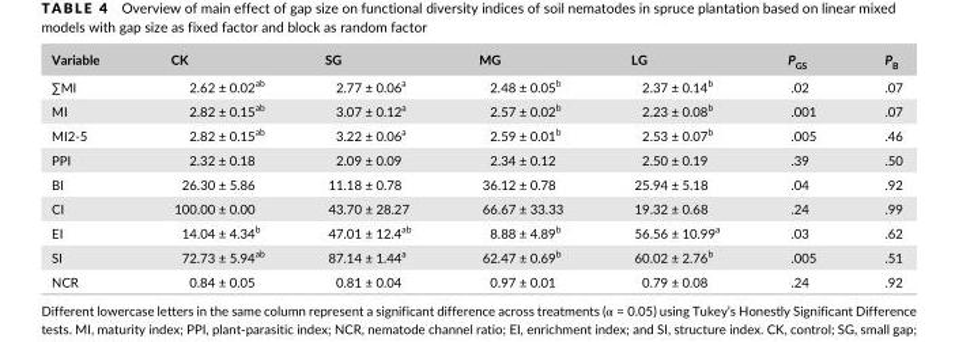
<table><thead><tr><td>Variable</td><td>CK</td><td>SG</td><td>MG</td><td>LG</td><td>P<sub>GS</sub></td><td>P<sub>B</sub></td></tr></thead><tbody><tr><td>∑MI</td><td>2.62 ± 0.02<sup>ab</sup></td><td>2.77 ± 0.06<sup>a</sup></td><td>2.48 ± 0.05<sup>b</sup></td><td>2.37 ± 0.14<sup>b</sup></td><td>.02</td><td>.07</td></tr><tr><td>MI</td><td>2.82 ± 0.15<sup>ab</sup></td><td>3.07 ± 0.12<sup>a</sup></td><td>2.57 ± 0.02<sup>b</sup></td><td>2.23 ± 0.08<sup>b</sup></td><td>.001</td><td>.07</td></tr><tr><td>MI2- 5</td><td>2.82 ± 0.15<sup>ab</sup></td><td>3.22 ± 0.06<sup>a</sup></td><td>2.59 ± 0.01<sup>b</sup></td><td>2.53 ± 0.07<sup>b</sup></td><td>.005</td><td>.46</td></tr><tr><td>PPI</td><td>2.32 ± 0.18</td><td>2.09 ± 0.09</td><td>2.34 ± 0.12</td><td>2.50 ± 0.19</td><td>.39</td><td>.50</td></tr><tr><td>BI</td><td>26.30 ± 5.86</td><td>11.18 ± 0.78</td><td>36.12 ± 0.78</td><td>25.94 ± 5.18</td><td>.04</td><td>.92</td></tr><tr><td>CI</td><td>100.00 ± 0.00</td><td>43.70 ± 28.27</td><td>66.67 ± 33.33</td><td>19.32 ± 0.68</td><td>.24</td><td>.99</td></tr><tr><td>EI</td><td>14.04 ± 4.34<sup>b</sup></td><td>47.01 ± 12.4<sup>ab</sup></td><td>8.88 ± 4.89<sup>b</sup></td><td>56.56 ± 10.99<sup>a</sup></td><td>.03</td><td>.62</td></tr><tr><td>SI</td><td>72.73 ± 5.94<sup>ab</sup></td><td>87.14 ± 1.44<sup>a</sup></td><td>62.47 ± 0.69<sup>b</sup></td><td>60.02 ± 2.76<sup>b</sup></td><td>.005</td><td>.51</td></tr><tr><td>NCR</td><td>0.84 ± 0.05</td><td>0.81 ± 0.04</td><td>0.97 ± 0.01</td><td>0.79 ± 0.08</td><td>.24</td><td>.92</td></tr></tbody></table>